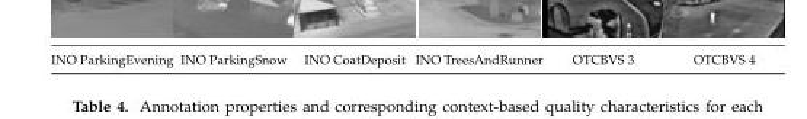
<table><tbody><tr><td>INO ParkingEvening</td><td>INO ParkingSnow</td><td>INO CoatDeposit</td><td>INO TreesAndRunner</td><td>OTCBVS 3</td><td>OTCBVS 4</td></tr></tbody></table>